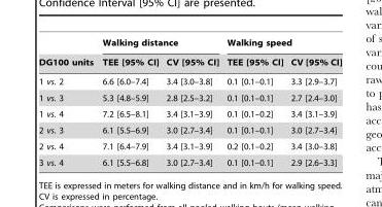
<table><thead><tr><td rowspan="2">DG100 units</td><td colspan="2">Walking distance</td><td colspan="2">Walking speed</td></tr><tr><td>TEE [95% CI]</td><td>CV [95% CI]</td><td>TEE [95% CI]</td><td>CV [95% CI]</td></tr></thead><tbody><tr><td>1 vs. 2</td><td>6.6 [6.0–7.4]</td><td>3.4 [3.0–3.8]</td><td>0.1 [0.1–0.1]</td><td>3.3 [2.9–3.7]</td></tr><tr><td>1 vs. 3</td><td>5.3 [4.8–5.9]</td><td>2.8 [2.5–3.2]</td><td>0.1 [0.1–0.1]</td><td>2.7 [2.4–3.0]</td></tr><tr><td>1 vs. 4</td><td>7.2 [6.5–8.1]</td><td>3.4 [3.1–3.9]</td><td>0.1 [0.1–0.2]</td><td>3.4 [3.1–3.9]</td></tr><tr><td>2 vs. 3</td><td>6.1 [5.5–6.9]</td><td>3.0 [2.7–3.4]</td><td>0.1 [0.1–0.1]</td><td>3.0 [2.7–3.4]</td></tr><tr><td>2 vs. 4</td><td>7.1 [6.4–7.9]</td><td>3.4 [3.1–3.9]</td><td>0.2 [0.1–0.2]</td><td>3.4 [3.0–3.8]</td></tr><tr><td>3 vs. 4</td><td>6.1 [5.5–6.8]</td><td>3.0 [2.7–3.4]</td><td>0.1 [0.1–0.1]</td><td>2.9 [2.6–3.3]</td></tr></tbody></table>